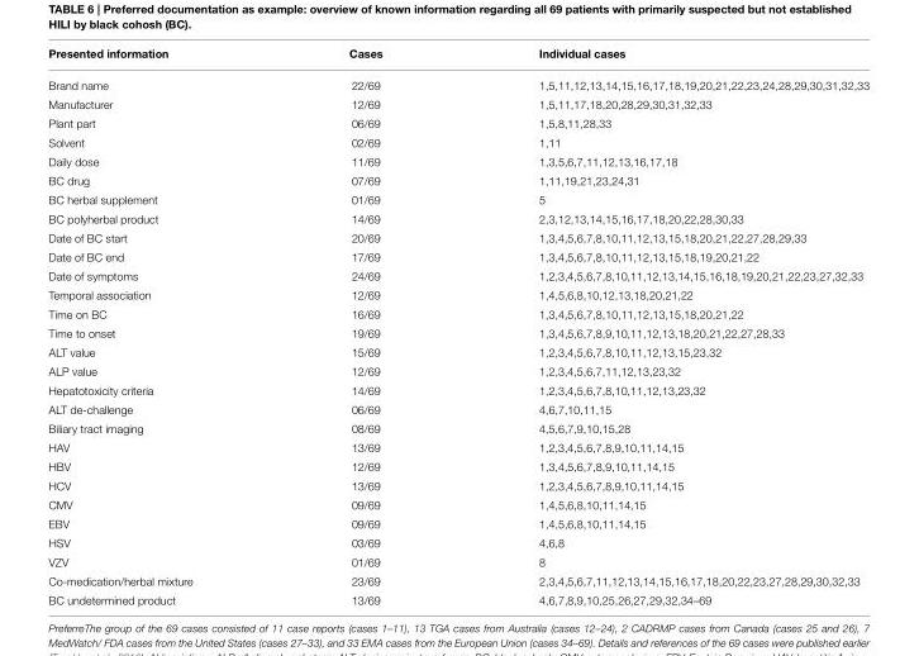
<table><thead><tr><td>Presented information</td><td>Cases</td><td>Individual cases</td></tr></thead><tbody><tr><td>Brand name</td><td>22/69</td><td>1,5,11,12,13,14,15,16,17,18,19,20,21,22,23,24,28,29,30,31,32,33</td></tr><tr><td>Manufacturer</td><td>12/69</td><td>1,5,11,17,18,20,28,29,30,31,32,33</td></tr><tr><td>Plant part</td><td>06/69</td><td>1,5,8,11,28,33</td></tr><tr><td>Solvent</td><td>02/69</td><td>1,11</td></tr><tr><td>Daily dose</td><td>11/69</td><td>1,3,5,6,7,11,12,13,16,17,18</td></tr><tr><td>BC drug</td><td>07/69</td><td>1,11,19,21,23,24,31</td></tr><tr><td>BC herbal supplement</td><td>01/69</td><td>5</td></tr><tr><td>BC polyherbal product</td><td>14/69</td><td>2,3,12,13,14,15,16,17,18,20,22,28,30,33</td></tr><tr><td>Date of BC start</td><td>20/69</td><td>1,3,4,5,6,7,8,10,11,12,13,15,18,20,21,22,27,28,29,33</td></tr><tr><td>Date of BC end</td><td>17/69</td><td>1,3,4,5,6,7,8,10,11,12,13,15,18,19,20,21,22</td></tr><tr><td>Date of symptoms</td><td>24/69</td><td>1,2,3,4,5,6,7,8,10,11,12,13,14,15,16,18,19,20,21,22,23,27,32,33</td></tr><tr><td>Temporal association</td><td>12/69</td><td>1,4,5,6,8,10,12,13,18,20,21,22</td></tr><tr><td>Time on BC</td><td>16/69</td><td>1,3,4,5,6,7,8,10,11,12,13,15,18,20,21,22</td></tr><tr><td>Time to onset</td><td>19/69</td><td>1,3,4,5,6,7,8,9,10,11,12,13,18,20,21,22,27,28,33</td></tr><tr><td>ALT value</td><td>15/69</td><td>1,2,3,4,5,6,7,8,10,11,12,13,15,23,32</td></tr><tr><td>ALP value</td><td>12/69</td><td>1,2,3,4,5,6,7,11,12,13,23,32</td></tr><tr><td>Hepatotoxicity criteria</td><td>14/69</td><td>1,2,3,4,5,6,7,8,10,11,12,13,23,32</td></tr><tr><td>ALT de-challenge</td><td>06/69</td><td>4,6,7,10,11,15</td></tr><tr><td>Biliary tract imaging</td><td>08/69</td><td>4,5,6,7,9,10,15,28</td></tr><tr><td>HAV</td><td>13/69</td><td>1,2,3,4,5,6,7,8,9,10,11,14,15</td></tr><tr><td>HBV</td><td>12/69</td><td>1,3,4,5,6,7,8,9,10,11,14,15</td></tr><tr><td>HCV</td><td>13/69</td><td>1,2,3,4,5,6,7,8,9,10,11,14,15</td></tr><tr><td>CMV</td><td>09/69</td><td>1,4,5,6,8,10,11,14,15</td></tr><tr><td>EBV</td><td>09/69</td><td>1,4,5,6,8,10,11,14,15</td></tr><tr><td>HSV</td><td>03/69</td><td>4,6,8</td></tr><tr><td>VZV</td><td>01/69</td><td>8</td></tr><tr><td>Co-medication/herbal mixture</td><td>23/69</td><td>2,3,4,5,6,7,11,12,13,14,15,16,17,18,20,22,23,27,28,29,30,32,33</td></tr><tr><td>BC undetermined product</td><td>13/69</td><td>4,6,7,8,9,10,25,26,27,29,32,34–69</td></tr></tbody></table>